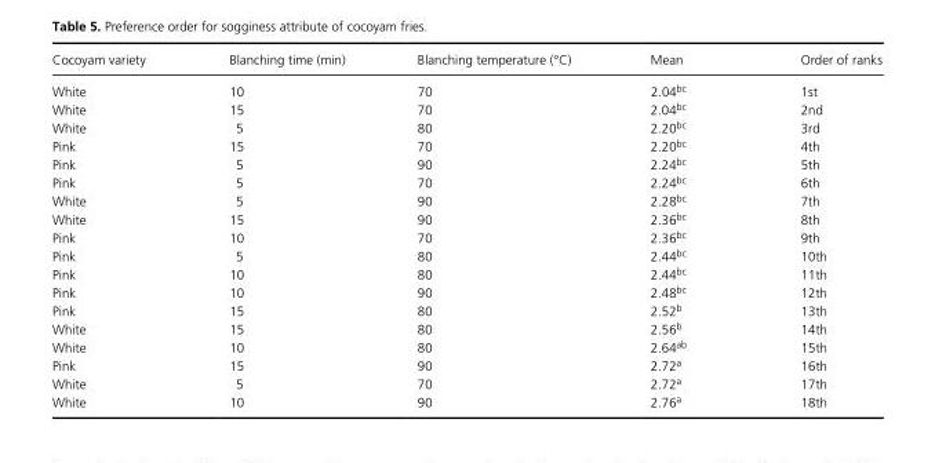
<table><thead><tr><td>Cocoyam variety</td><td>Blanching time (min)</td><td>Blanching temperature (°C)</td><td>Mean</td><td>Order of ranks</td></tr></thead><tbody><tr><td>White</td><td>10</td><td>70</td><td>2.04<sup>bc</sup></td><td>1st</td></tr><tr><td>White</td><td>15</td><td>70</td><td>2.04<sup>bc</sup></td><td>2nd</td></tr><tr><td>White</td><td>5</td><td>80</td><td>2.20<sup>bc</sup></td><td>3rd</td></tr><tr><td>Pink</td><td>15</td><td>70</td><td>2.20<sup>bc</sup></td><td>4th</td></tr><tr><td>Pink</td><td>5</td><td>90</td><td>2.24<sup>bc</sup></td><td>5th</td></tr><tr><td>Pink</td><td>5</td><td>70</td><td>2.24<sup>bc</sup></td><td>6th</td></tr><tr><td>White</td><td>5</td><td>90</td><td>2.28<sup>bc</sup></td><td>7th</td></tr><tr><td>White</td><td>15</td><td>90</td><td>2.36<sup>bc</sup></td><td>8th</td></tr><tr><td>Pink</td><td>10</td><td>70</td><td>2.36<sup>bc</sup></td><td>9th</td></tr><tr><td>Pink</td><td>5</td><td>80</td><td>2.44<sup>bc</sup></td><td>10th</td></tr><tr><td>Pink</td><td>10</td><td>80</td><td>2.44<sup>bc</sup></td><td>11th</td></tr><tr><td>Pink</td><td>10</td><td>90</td><td>2.48<sup>bc</sup></td><td>12th</td></tr><tr><td>Pink</td><td>15</td><td>80</td><td>2.52<sup>b</sup></td><td>13th</td></tr><tr><td>White</td><td>15</td><td>80</td><td>2.56<sup>b</sup></td><td>14th</td></tr><tr><td>White</td><td>10</td><td>80</td><td>2.64<sup>ab</sup></td><td>15th</td></tr><tr><td>Pink</td><td>15</td><td>90</td><td>2.72<sup>a</sup></td><td>16th</td></tr><tr><td>White</td><td>5</td><td>70</td><td>2.72<sup>a</sup></td><td>17th</td></tr><tr><td>White</td><td>10</td><td>90</td><td>2.76<sup>a</sup></td><td>18th</td></tr></tbody></table>